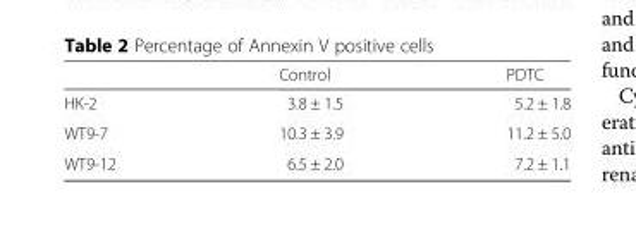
<table><thead><tr><td></td><td>Control</td><td>PDTC</td></tr></thead><tbody><tr><td>HK-2</td><td>3.8 ± 1.5</td><td>5.2 ± 1.8</td></tr><tr><td>WT9-7</td><td>10.3 ± 3.9</td><td>11.2 ± 5.0</td></tr><tr><td>WT9-12</td><td>6.5 ± 2.0</td><td>7.2 ± 1.1</td></tr></tbody></table>